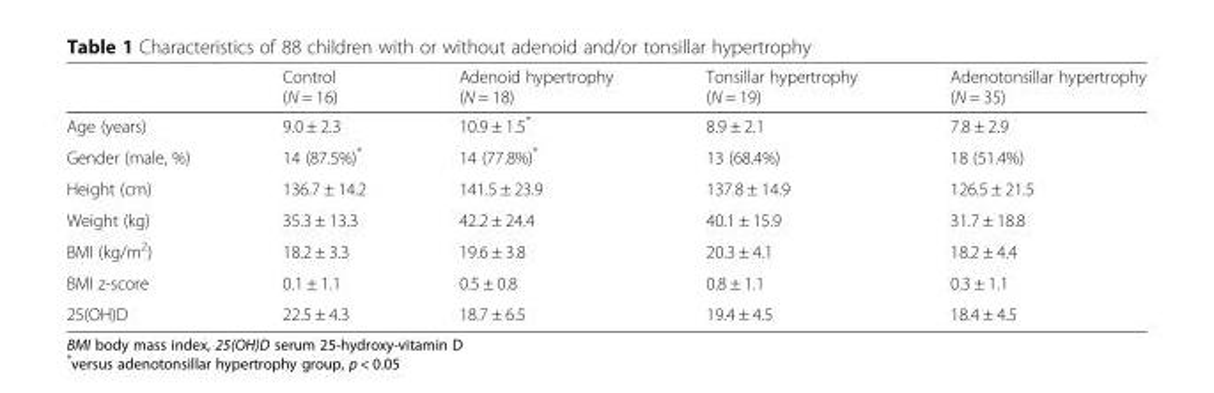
<table><thead><tr><td></td><td>Control (N = 16)</td><td>Adenoid hypertrophy (N = 18)</td><td>Tonsillar hypertrophy (N = 19)</td><td>Adenotonsillar hypertrophy (N = 35)</td></tr></thead><tbody><tr><td>Age (years)</td><td>9.0 ± 2.3</td><td>10.9 ± 1.5*</td><td>8.9 ± 2.1</td><td>7.8 ± 2.9</td></tr><tr><td>Gender (male, %)</td><td>14 (87.5%)*</td><td>14 (77.8%)*</td><td>13 (68.4%)</td><td>18 (51.4%)</td></tr><tr><td>Height (cm)</td><td>136.7 ± 14.2</td><td>141.5 ± 23.9</td><td>137.8 ± 14.9</td><td>126.5 ± 21.5</td></tr><tr><td>Weight (kg)</td><td>35.3 ± 13.3</td><td>42.2 ± 24.4</td><td>40.1 ± 15.9</td><td>31.7 ± 18.8</td></tr><tr><td>BMI (kg/m<sup>2</sup>)</td><td>18.2 ± 3.3</td><td>19.6 ± 3.8</td><td>20.3 ± 4.1</td><td>18.2 ± 4.4</td></tr><tr><td>BMI z-score</td><td>0.1 ± 1.1</td><td>0.5 ± 0.8</td><td>0.8 ± 1.1</td><td>0.3 ± 1.1</td></tr><tr><td>25(OH)D</td><td>22.5 ± 4.3</td><td>18.7 ± 6.5</td><td>19.4 ± 4.5</td><td>18.4 ± 4.5</td></tr></tbody></table>